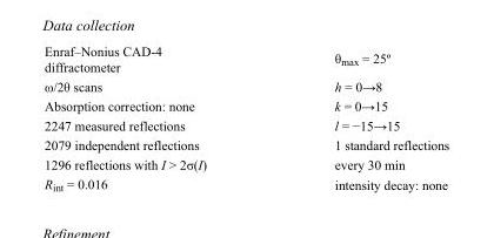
<table><tbody><tr><td>Enraf–Nonius CAD-4 diffractometer</td><td>θ<sub>max</sub> = 25º</td></tr><tr><td>ω/2θ scans</td><td>h = 0→8</td></tr><tr><td>Absorption correction: none</td><td>k = 0→15</td></tr><tr><td>2247 measured reflections</td><td>l = −15→15</td></tr><tr><td>2079 independent reflections</td><td>1 standard reflections</td></tr><tr><td>1296 reflections with I &gt; 2σ(I)</td><td>every 30 min</td></tr><tr><td>R<sub>int</sub> = 0.016</td><td>intensity decay: none</td></tr></tbody></table>